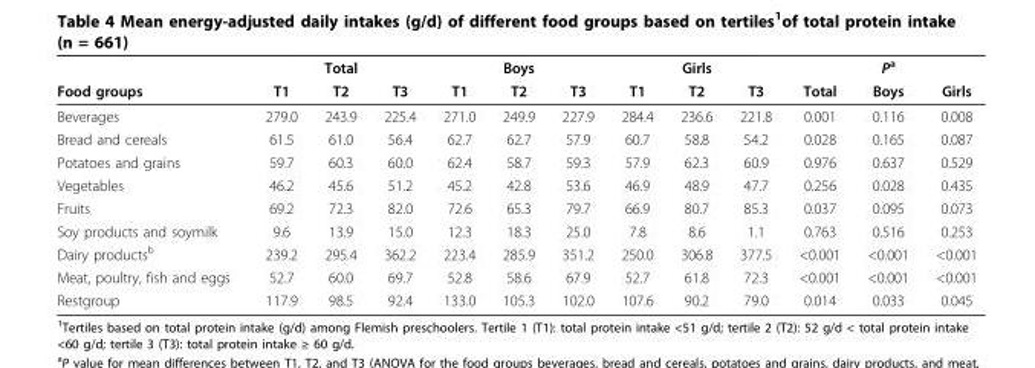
<table><thead><tr><td rowspan="2">Food groups</td><td colspan="3">Total</td><td colspan="3">Boys</td><td colspan="3">Girls</td><td colspan="3">P<sup>a</sup></td></tr><tr><td>T1</td><td>T2</td><td>T3</td><td>T1</td><td>T2</td><td>T3</td><td>T1</td><td>T2</td><td>T3</td><td>Total</td><td>Boys</td><td>Girls</td></tr></thead><tbody><tr><td>Beverages</td><td>279.0</td><td>243.9</td><td>225.4</td><td>271.0</td><td>249.9</td><td>227.9</td><td>284.4</td><td>236.6</td><td>221.8</td><td>0.001</td><td>0.116</td><td>0.008</td></tr><tr><td>Bread and cereals</td><td>61.5</td><td>61.0</td><td>56.4</td><td>62.7</td><td>62.7</td><td>57.9</td><td>60.7</td><td>58.8</td><td>54.2</td><td>0.028</td><td>0.165</td><td>0.087</td></tr><tr><td>Potatoes and grains</td><td>59.7</td><td>60.3</td><td>60.0</td><td>62.4</td><td>58.7</td><td>59.3</td><td>57.9</td><td>62.3</td><td>60.9</td><td>0.976</td><td>0.637</td><td>0.529</td></tr><tr><td>Vegetables</td><td>46.2</td><td>45.6</td><td>51.2</td><td>45.2</td><td>42.8</td><td>53.6</td><td>46.9</td><td>48.9</td><td>47.7</td><td>0.256</td><td>0.028</td><td>0.435</td></tr><tr><td>Fruits</td><td>69.2</td><td>72.3</td><td>82.0</td><td>72.6</td><td>65.3</td><td>79.7</td><td>66.9</td><td>80.7</td><td>85.3</td><td>0.037</td><td>0.095</td><td>0.073</td></tr><tr><td>Soy products and soymilk</td><td>9.6</td><td>13.9</td><td>15.0</td><td>12.3</td><td>18.3</td><td>25.0</td><td>7.8</td><td>8.6</td><td>1.1</td><td>0.763</td><td>0.516</td><td>0.253</td></tr><tr><td>Dairy products<sup>b</sup></td><td>239.2</td><td>295.4</td><td>362.2</td><td>223.4</td><td>285.9</td><td>351.2</td><td>250.0</td><td>306.8</td><td>377.5</td><td>&lt;0.001</td><td>&lt;0.001</td><td>&lt;0.001</td></tr><tr><td>Meat, poultry, fish and eggs</td><td>52.7</td><td>60.0</td><td>69.7</td><td>52.8</td><td>58.6</td><td>67.9</td><td>52.7</td><td>61.8</td><td>72.3</td><td>&lt;0.001</td><td>&lt;0.001</td><td>&lt;0.001</td></tr><tr><td>Restgroup</td><td>117.9</td><td>98.5</td><td>92.4</td><td>133.0</td><td>105.3</td><td>102.0</td><td>107.6</td><td>90.2</td><td>79.0</td><td>0.014</td><td>0.033</td><td>0.045</td></tr></tbody></table>